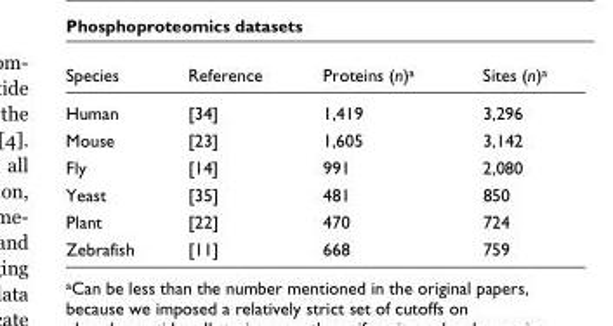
<table><thead><tr><td>Species</td><td>Reference</td><td>Proteins (n)<sup>a</sup></td><td>Sites (n)<sup>a</sup></td></tr></thead><tbody><tr><td>Human</td><td>[34]</td><td>1,419</td><td>3,296</td></tr><tr><td>Mouse</td><td>[23]</td><td>1,605</td><td>3,142</td></tr><tr><td>Fly</td><td>[14]</td><td>991</td><td>2,080</td></tr><tr><td>Yeast</td><td>[35]</td><td>481</td><td>850</td></tr><tr><td>Plant</td><td>[22]</td><td>470</td><td>724</td></tr><tr><td>Zebrafish</td><td>[11]</td><td>668</td><td>759</td></tr></tbody></table>